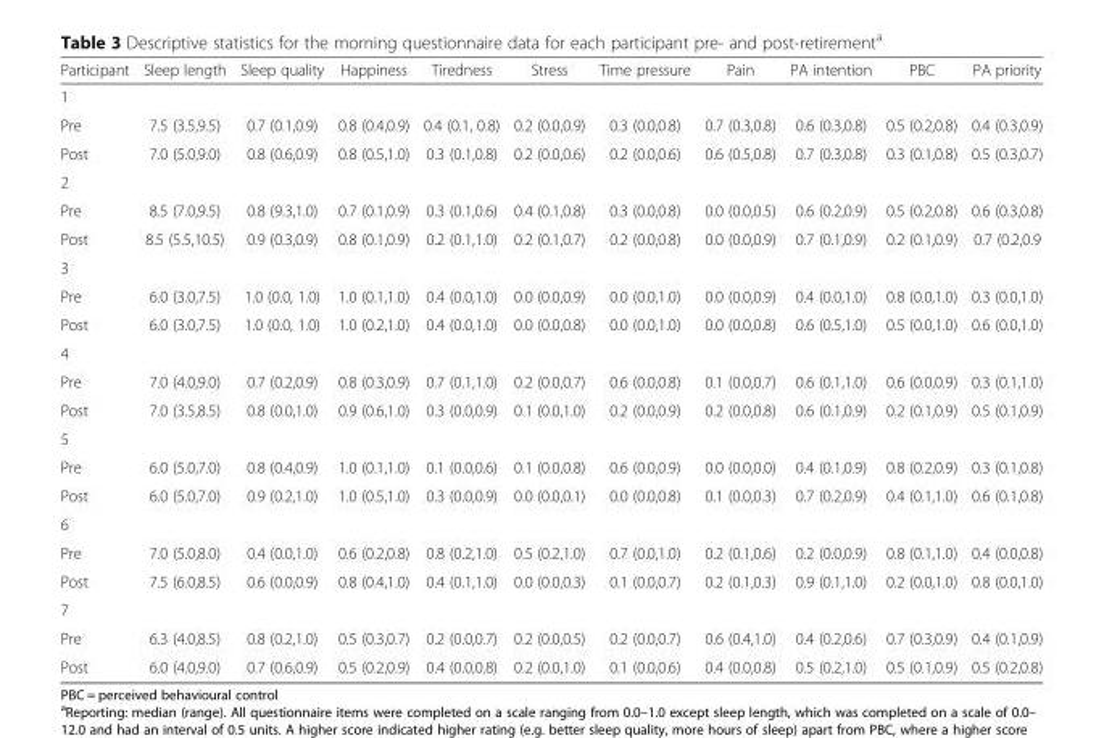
<table><thead><tr><td>Participant</td><td>Sleep length</td><td>Sleep quality</td><td>Happiness</td><td>Tiredness</td><td>Stress</td><td>Time pressure</td><td>Pain</td><td>PA intention</td><td>PBC</td><td>PA priority</td></tr></thead><tbody><tr><td colspan="11">1</td></tr><tr><td>Pre</td><td>7.5 (3.5,9.5)</td><td>0.7 (0.1,0.9)</td><td>0.8 (0.4,0.9)</td><td>0.4 (0.1, 0.8)</td><td>0.2 (0.0,0.9)</td><td>0.3 (0.0,0.8)</td><td>0.7 (0.3,0.8)</td><td>0.6 (0.3,0.8)</td><td>0.5 (0.2,0.8)</td><td>0.4 (0.3,0.9)</td></tr><tr><td>Post</td><td>7.0 (5.0,9.0)</td><td>0.8 (0.6,0.9)</td><td>0.8 (0.5,1.0)</td><td>0.3 (0.1,0.8)</td><td>0.2 (0.0,0.6)</td><td>0.2 (0.0,0.6)</td><td>0.6 (0.5,0.8)</td><td>0.7 (0.3,0.8)</td><td>0.3 (0.1,0.8)</td><td>0.5 (0.3,0.7)</td></tr><tr><td colspan="11">2</td></tr><tr><td>Pre</td><td>8.5 (7.0,9.5)</td><td>0.8 (9.3,1.0)</td><td>0.7 (0.1,0.9)</td><td>0.3 (0.1,0.6)</td><td>0.4 (0.1,0.8)</td><td>0.3 (0.0,0.8)</td><td>0.0 (0.0,0.5)</td><td>0.6 (0.2,0.9)</td><td>0.5 (0.2,0.8)</td><td>0.6 (0.3,0.8)</td></tr><tr><td>Post</td><td>8.5 (5.5,10.5)</td><td>0.9 (0.3,0.9)</td><td>0.8 (0.1,0.9)</td><td>0.2 (0.1,1.0)</td><td>0.2 (0.1,0.7)</td><td>0.2 (0.0,0.8)</td><td>0.0 (0.0,0.9)</td><td>0.7 (0.1,0.9)</td><td>0.2 (0.1,0.9)</td><td>0.7 (0.2,0.9</td></tr><tr><td colspan="11">3</td></tr><tr><td>Pre</td><td>6.0 (3.0,7.5)</td><td>1.0 (0.0, 1.0)</td><td>1.0 (0.1,1.0)</td><td>0.4 (0.0,1.0)</td><td>0.0 (0.0,0.9)</td><td>0.0 (0.0,1.0)</td><td>0.0 (0.0,0.9)</td><td>0.4 (0.0,1.0)</td><td>0.8 (0.0,1.0)</td><td>0.3 (0.0,1.0)</td></tr><tr><td>Post</td><td>6.0 (3.0,7.5)</td><td>1.0 (0.0, 1.0)</td><td>1.0 (0.2,1.0)</td><td>0.4 (0.0,1.0)</td><td>0.0 (0.0,0.8)</td><td>0.0 (0.0,1.0)</td><td>0.0 (0.0,0.8)</td><td>0.6 (0.5,1.0)</td><td>0.5 (0.0,1.0)</td><td>0.6 (0.0,1.0)</td></tr><tr><td colspan="11">4</td></tr><tr><td>Pre</td><td>7.0 (4.0,9.0)</td><td>0.7 (0.2,0.9)</td><td>0.8 (0.3,0.9)</td><td>0.7 (0.1,1.0)</td><td>0.2 (0.0,0.7)</td><td>0.6 (0.0,0.8)</td><td>0.1 (0.0,0.7)</td><td>0.6 (0.1,1.0)</td><td>0.6 (0.0,0.9)</td><td>0.3 (0.1,1.0)</td></tr><tr><td>Post</td><td>7.0 (3.5,8.5)</td><td>0.8 (0.0,1.0)</td><td>0.9 (0.6,1.0)</td><td>0.3 (0.0,0.9)</td><td>0.1 (0.0,1.0)</td><td>0.2 (0.0,0.9)</td><td>0.2 (0.0,0.8)</td><td>0.6 (0.1,0.9)</td><td>0.2 (0.1,0.9)</td><td>0.5 (0.1,0.9)</td></tr><tr><td colspan="11">5</td></tr><tr><td>Pre</td><td>6.0 (5.0,7.0)</td><td>0.8 (0.4,0.9)</td><td>1.0 (0.1,1.0)</td><td>0.1 (0.0,0.6)</td><td>0.1 (0.0,0.8)</td><td>0.6 (0.0,0.9)</td><td>0.0 (0.0,0.0)</td><td>0.4 (0.1,0.9)</td><td>0.8 (0.2,0.9)</td><td>0.3 (0.1,0.8)</td></tr><tr><td>Post</td><td>6.0 (5.0,7.0)</td><td>0.9 (0.2,1.0)</td><td>1.0 (0.5,1.0)</td><td>0.3 (0.0,0.9)</td><td>0.0 (0.0,0.1)</td><td>0.0 (0.0,0.8)</td><td>0.1 (0.0,0.3)</td><td>0.7 (0.2,0.9)</td><td>0.4 (0.1,1.0)</td><td>0.6 (0.1,0.8)</td></tr><tr><td colspan="11">6</td></tr><tr><td>Pre</td><td>7.0 (5.0,8.0)</td><td>0.4 (0.0,1.0)</td><td>0.6 (0.2,0.8)</td><td>0.8 (0.2,1.0)</td><td>0.5 (0.2,1.0)</td><td>0.7 (0.0,1.0)</td><td>0.2 (0.1,0.6)</td><td>0.2 (0.0,0.9)</td><td>0.8 (0.1,1.0)</td><td>0.4 (0.0,0.8)</td></tr><tr><td>Post</td><td>7.5 (6.0,8.5)</td><td>0.6 (0.0,0.9)</td><td>0.8 (0.4,1.0)</td><td>0.4 (0.1,1.0)</td><td>0.0 (0.0,0.3)</td><td>0.1 (0.0,0.7)</td><td>0.2 (0.1,0.3)</td><td>0.9 (0.1,1.0)</td><td>0.2 (0.0,1.0)</td><td>0.8 (0.0,1.0)</td></tr><tr><td colspan="11">7</td></tr><tr><td>Pre</td><td>6.3 (4.0,8.5)</td><td>0.8 (0.2,1.0)</td><td>0.5 (0.3,0.7)</td><td>0.2 (0.0,0.7)</td><td>0.2 (0.0,0.5)</td><td>0.2 (0.0,0.7)</td><td>0.6 (0.4,1.0)</td><td>0.4 (0.2,0.6)</td><td>0.7 (0.3,0.9)</td><td>0.4 (0.1,0.9)</td></tr><tr><td>Post</td><td>6.0 (4.0,9.0)</td><td>0.7 (0.6,0.9)</td><td>0.5 (0.2,0.9)</td><td>0.4 (0.0,0.8)</td><td>0.2 (0.0,1.0)</td><td>0.1 (0.0,0.6)</td><td>0.4 (0.0,0.8)</td><td>0.5 (0.2,1.0)</td><td>0.5 (0.1,0.9)</td><td>0.5 (0.2,0.8)</td></tr></tbody></table>